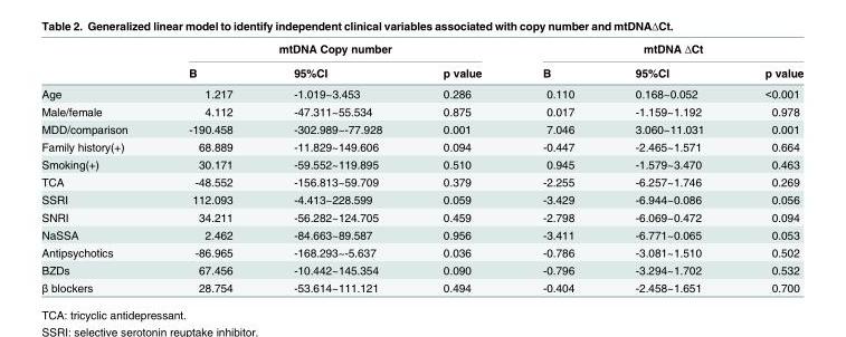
<table><thead><tr><td rowspan="2"></td><td colspan="3">mtDNA Copy number</td><td colspan="3">mtDNA ΔCt</td></tr><tr><td>B</td><td>95%CI</td><td>p value</td><td>B</td><td>95%CI</td><td>p value</td></tr></thead><tbody><tr><td>Age</td><td>1.217</td><td>-1.019~3.453</td><td>0.286</td><td>0.110</td><td>0.168~0.052</td><td>&lt;0.001</td></tr><tr><td>Male/female</td><td>4.112</td><td>-47.311~55.534</td><td>0.875</td><td>0.017</td><td>-1.159~1.192</td><td>0.978</td></tr><tr><td>MDD/comparison</td><td>-190.458</td><td>-302.989~-77.928</td><td>0.001</td><td>7.046</td><td>3.060~11.031</td><td>0.001</td></tr><tr><td>Family history(+)</td><td>68.889</td><td>-11.829~149.606</td><td>0.094</td><td>-0.447</td><td>-2.465~1.571</td><td>0.664</td></tr><tr><td>Smoking(+)</td><td>30.171</td><td>-59.552~119.895</td><td>0.510</td><td>0.945</td><td>-1.579~3.470</td><td>0.463</td></tr><tr><td>TCA</td><td>-48.552</td><td>-156.813~59.709</td><td>0.379</td><td>-2.255</td><td>-6.257~1.746</td><td>0.269</td></tr><tr><td>SSRI</td><td>112.093</td><td>-4.413~228.599</td><td>0.059</td><td>-3.429</td><td>-6.944~0.086</td><td>0.056</td></tr><tr><td>SNRI</td><td>34.211</td><td>-56.282~124.705</td><td>0.459</td><td>-2.798</td><td>-6.069~0.472</td><td>0.094</td></tr><tr><td>NaSSA</td><td>2.462</td><td>-84.663~89.587</td><td>0.956</td><td>-3.411</td><td>-6.771~0.065</td><td>0.053</td></tr><tr><td>Antipsychotics</td><td>-86.965</td><td>-168.293~-5.637</td><td>0.036</td><td>-0.786</td><td>-3.081~1.510</td><td>0.502</td></tr><tr><td>BZDs</td><td>67.456</td><td>-10.442~145.354</td><td>0.090</td><td>-0.796</td><td>-3.294~1.702</td><td>0.532</td></tr><tr><td>β blockers</td><td>28.754</td><td>-53.614~111.121</td><td>0.494</td><td>-0.404</td><td>-2.458~1.651</td><td>0.700</td></tr></tbody></table>